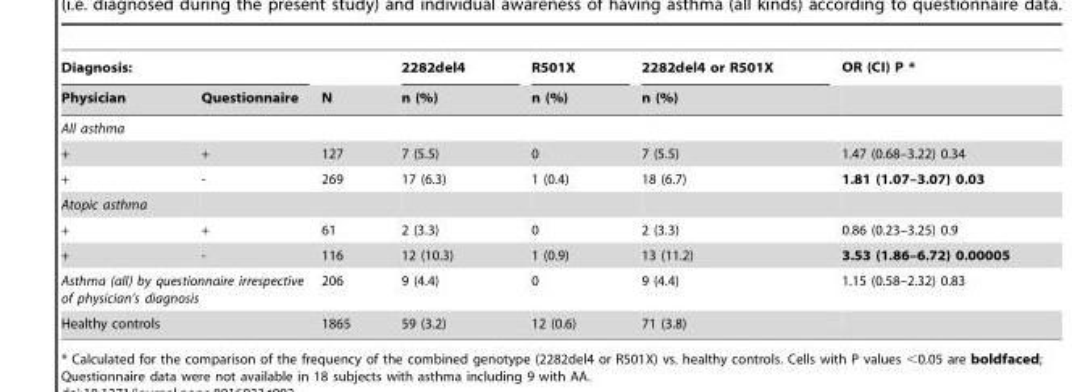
<table><thead><tr><td colspan="2">Diagnosis:</td><td rowspan="2">N</td><td rowspan="2">2282del4 n (%)</td><td rowspan="2">R501X n (%)</td><td rowspan="2">2282del4 or R501X n (%)</td><td rowspan="2">OR (CI) P *</td></tr><tr><td>Physician</td><td>Questionnaire</td></tr></thead><tbody><tr><td colspan="7">All asthma</td></tr><tr><td>+</td><td>+</td><td>127</td><td>7 (5.5)</td><td>0</td><td>7 (5.5)</td><td>1.47 (0.68–3.22) 0.34</td></tr><tr><td>+</td><td>-</td><td>269</td><td>17 (6.3)</td><td>1 (0.4)</td><td>18 (6.7)</td><td>1.81 (1.07–3.07) 0.03</td></tr><tr><td colspan="7">Atopic asthma</td></tr><tr><td>+</td><td>+</td><td>61</td><td>2 (3.3)</td><td>0</td><td>2 (3.3)</td><td>0.86 (0.23–3.25) 0.9</td></tr><tr><td>+</td><td>-</td><td>116</td><td>12 (10.3)</td><td>1 (0.9)</td><td>13 (11.2)</td><td>3.53 (1.86–6.72) 0.00005</td></tr><tr><td colspan="2">Asthma (all) by questionnaire irrespective of physician’s diagnosis</td><td>206</td><td>9 (4.4)</td><td>0</td><td>9 (4.4)</td><td>1.15 (0.58–2.32) 0.83</td></tr><tr><td colspan="2">Healthy controls</td><td>1865</td><td>59 (3.2)</td><td>12 (0.6)</td><td>71 (3.8)</td><td></td></tr></tbody></table>